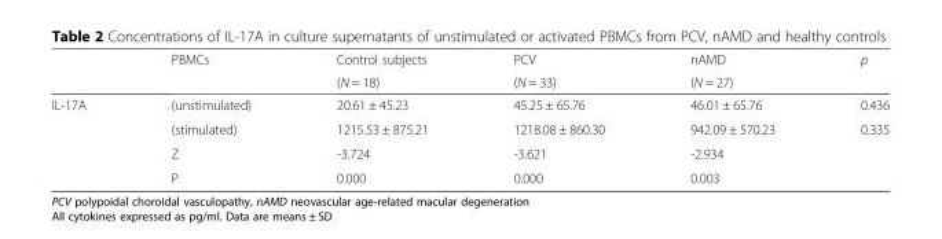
<table><thead><tr><td rowspan="2"></td><td rowspan="2">PBMCs</td><td rowspan="2">Control subjects (N = 18)</td><td rowspan="2">PCV (N = 33)</td><td rowspan="2">nAMD (N = 27)</td><td rowspan="2">p</td></tr><tr></tr></thead><tbody><tr><td rowspan="4">IL-17A</td><td>(unstimulated)</td><td>20.61 ± 45.23</td><td>45.25 ± 65.76</td><td>46.01 ± 65.76</td><td>0.436</td></tr><tr><td>(stimulated)</td><td>1215.53 ± 875.21</td><td>1218.08 ± 860.30</td><td>942.09 ± 570.23</td><td>0.335</td></tr><tr><td>Z</td><td>-3.724</td><td>-3.621</td><td>-2.934</td><td></td></tr><tr><td>P</td><td>0.000</td><td>0.000</td><td>0.003</td><td></td></tr></tbody></table>